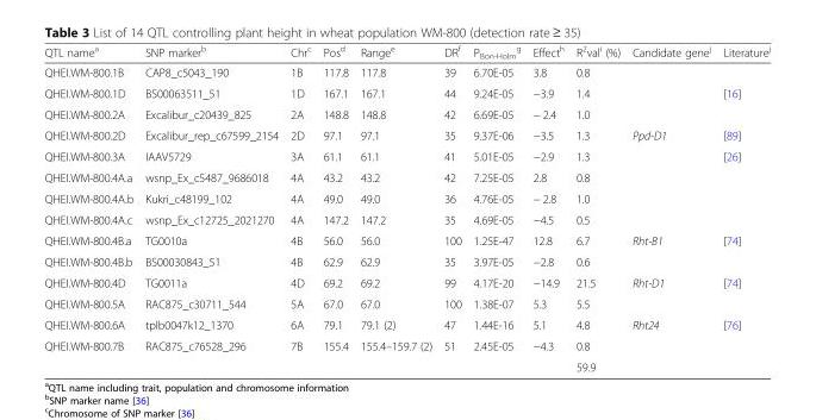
<table><thead><tr><td>QTL name<sup>a</sup></td><td>SNP marker<sup>b</sup></td><td>Chr<sup>c</sup></td><td>Pos<sup>d</sup></td><td>Range<sup>e</sup></td><td>DR<sup>f</sup></td><td>P<sub>Bon-Holm</sub> <sup>g</sup></td><td>Effect<sup>h</sup></td><td>R<sup>2</sup>val<sup>i</sup> (%)</td><td>Candidate gene<sup>j</sup></td><td>Literature<sup>j</sup></td></tr></thead><tbody><tr><td>QHEI.WM-800.1B</td><td>CAP8_c5043_190</td><td>1B</td><td>117.8</td><td>117.8</td><td>39</td><td>6.70E-05</td><td>3.8</td><td>0.8</td><td></td><td></td></tr><tr><td>QHEI.WM-800.1D</td><td>BS00063511_51</td><td>1D</td><td>167.1</td><td>167.1</td><td>44</td><td>9.24E-05</td><td>−3.9</td><td>1.4</td><td></td><td>[16]</td></tr><tr><td>QHEI.WM-800.2A</td><td>Excalibur_c20439_825</td><td>2A</td><td>148.8</td><td>148.8</td><td>42</td><td>6.69E-05</td><td>− 2.4</td><td>1.0</td><td></td><td></td></tr><tr><td>QHEI.WM-800.2D</td><td>Excalibur_rep_c67599_2154</td><td>2D</td><td>97.1</td><td>97.1</td><td>35</td><td>9.37E-06</td><td>−3.5</td><td>1.3</td><td>Ppd-D1</td><td>[89]</td></tr><tr><td>QHEI.WM-800.3A</td><td>IAAV5729</td><td>3A</td><td>61.1</td><td>61.1</td><td>41</td><td>5.01E-05</td><td>−2.9</td><td>1.3</td><td></td><td>[26]</td></tr><tr><td>QHEI.WM-800.4A.a</td><td>wsnp_Ex_c5487_9686018</td><td>4A</td><td>43.2</td><td>43.2</td><td>42</td><td>7.25E-05</td><td>2.8</td><td>0.8</td><td></td><td></td></tr><tr><td>QHEI.WM-800.4A.b</td><td>Kukri_c48199_102</td><td>4A</td><td>49.0</td><td>49.0</td><td>36</td><td>4.76E-05</td><td>− 2.8</td><td>1.0</td><td></td><td></td></tr><tr><td>QHEI.WM-800.4A.c</td><td>wsnp_Ex_c12725_2021270</td><td>4A</td><td>147.2</td><td>147.2</td><td>35</td><td>4.69E-05</td><td>−4.5</td><td>0.5</td><td></td><td></td></tr><tr><td>QHEI.WM-800.4B.a</td><td>TG0010a</td><td>4B</td><td>56.0</td><td>56.0</td><td>100</td><td>1.25E-47</td><td>12.8</td><td>6.7</td><td>Rht-B1</td><td>[74]</td></tr><tr><td>QHEI.WM-800.4B.b</td><td>BS00030843_51</td><td>4B</td><td>62.9</td><td>62.9</td><td>35</td><td>3.97E-05</td><td>−2.8</td><td>0.6</td><td></td><td></td></tr><tr><td>QHEI.WM-800.4D</td><td>TG0011a</td><td>4D</td><td>69.2</td><td>69.2</td><td>99</td><td>4.17E-20</td><td>−14.9</td><td>21.5</td><td>Rht-D1</td><td>[74]</td></tr><tr><td>QHEI.WM-800.5A</td><td>RAC875_c30711_544</td><td>5A</td><td>67.0</td><td>67.0</td><td>100</td><td>1.38E-07</td><td>5.3</td><td>5.5</td><td></td><td></td></tr><tr><td>QHEI.WM-800.6A</td><td>tplb0047k12_1370</td><td>6A</td><td>79.1</td><td>79.1 (2)</td><td>47</td><td>1.44E-16</td><td>5.1</td><td>4.8</td><td>Rht24</td><td>[76]</td></tr><tr><td rowspan="2">QHEI.WM-800.7B</td><td>RAC875_c76528_296</td><td>7B</td><td>155.4</td><td>155.4–159.7 (2)</td><td>51</td><td>2.45E-05</td><td>−4.3</td><td>0.8</td><td></td><td></td></tr><tr><td></td><td></td><td></td><td></td><td></td><td></td><td></td><td>59.9</td><td></td><td></td></tr></tbody></table>